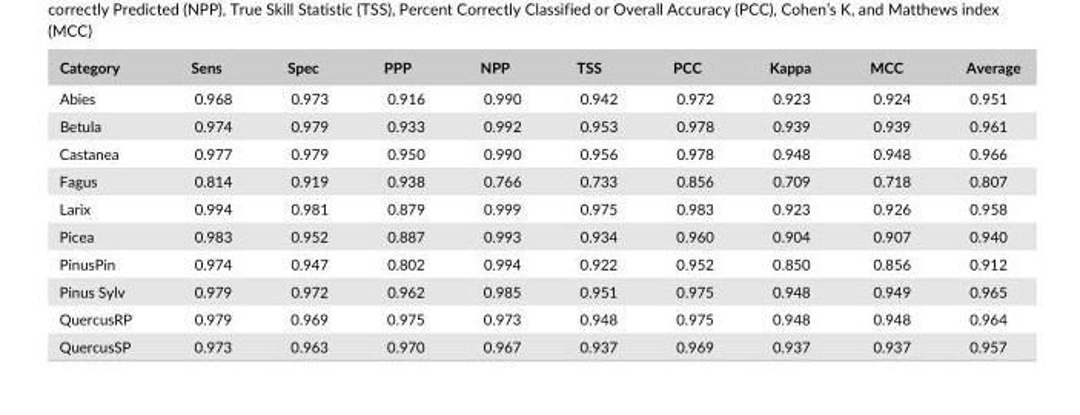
<table><thead><tr><td>Category</td><td>Sens</td><td>Spec</td><td>PPP</td><td>NPP</td><td>TSS</td><td>PCC</td><td>Kappa</td><td>MCC</td><td>Average</td></tr></thead><tbody><tr><td>Abies</td><td>0.968</td><td>0.973</td><td>0.916</td><td>0.990</td><td>0.942</td><td>0.972</td><td>0.923</td><td>0.924</td><td>0.951</td></tr><tr><td>Betula</td><td>0.974</td><td>0.979</td><td>0.933</td><td>0.992</td><td>0.953</td><td>0.978</td><td>0.939</td><td>0.939</td><td>0.961</td></tr><tr><td>Castanea</td><td>0.977</td><td>0.979</td><td>0.950</td><td>0.990</td><td>0.956</td><td>0.978</td><td>0.948</td><td>0.948</td><td>0.966</td></tr><tr><td>Fagus</td><td>0.814</td><td>0.919</td><td>0.938</td><td>0.766</td><td>0.733</td><td>0.856</td><td>0.709</td><td>0.718</td><td>0.807</td></tr><tr><td>Larix</td><td>0.994</td><td>0.981</td><td>0.879</td><td>0.999</td><td>0.975</td><td>0.983</td><td>0.923</td><td>0.926</td><td>0.958</td></tr><tr><td>Picea</td><td>0.983</td><td>0.952</td><td>0.887</td><td>0.993</td><td>0.934</td><td>0.960</td><td>0.904</td><td>0.907</td><td>0.940</td></tr><tr><td>PinusPin</td><td>0.974</td><td>0.947</td><td>0.802</td><td>0.994</td><td>0.922</td><td>0.952</td><td>0.850</td><td>0.856</td><td>0.912</td></tr><tr><td>Pinus Sylv</td><td>0.979</td><td>0.972</td><td>0.962</td><td>0.985</td><td>0.951</td><td>0.975</td><td>0.948</td><td>0.949</td><td>0.965</td></tr><tr><td>QuercusRP</td><td>0.979</td><td>0.969</td><td>0.975</td><td>0.973</td><td>0.948</td><td>0.975</td><td>0.948</td><td>0.948</td><td>0.964</td></tr><tr><td>QuercusSP</td><td>0.973</td><td>0.963</td><td>0.970</td><td>0.967</td><td>0.937</td><td>0.969</td><td>0.937</td><td>0.937</td><td>0.957</td></tr></tbody></table>